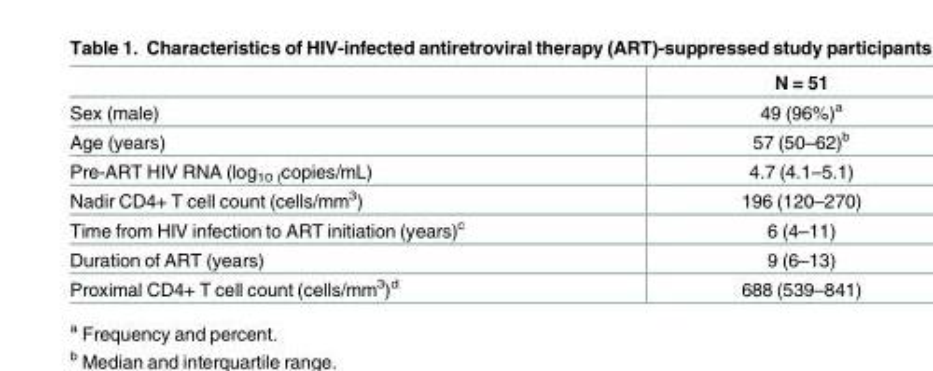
<table><thead><tr><td></td><td>N = 51</td></tr></thead><tbody><tr><td>Sex (male)</td><td>49 (96%)<sup>a</sup></td></tr><tr><td>Age (years)</td><td>57 (50–62)<sup>b</sup></td></tr><tr><td>Pre-ART HIV RNA (log<sub>10 (</sub>copies/mL)</td><td>4.7 (4.1–5.1)</td></tr><tr><td>Nadir CD4+ T cell count (cells/mm<sup>3</sup>)</td><td>196 (120–270)</td></tr><tr><td>Time from HIV infection to ART initiation (years)<sup>c</sup></td><td>6 (4–11)</td></tr><tr><td>Duration of ART (years)</td><td>9 (6–13)</td></tr><tr><td>Proximal CD4+ T cell count (cells/mm<sup>3</sup>)<sup>d</sup></td><td>688 (539–841)</td></tr></tbody></table>